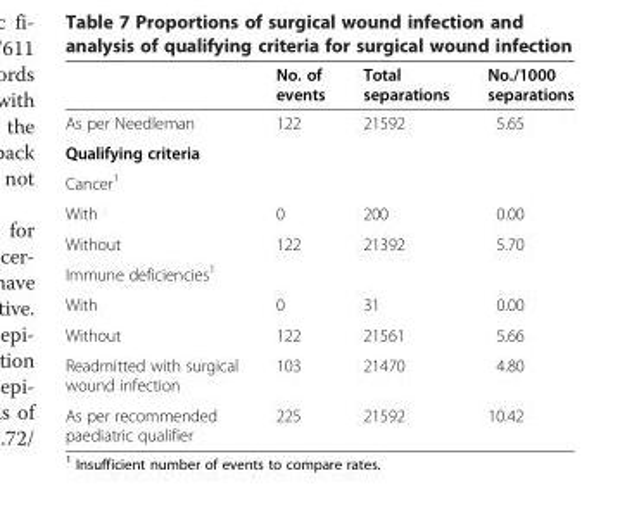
<table><thead><tr><td></td><td>No. of events</td><td>Total separations</td><td>No./1000 separations</td></tr></thead><tbody><tr><td>As per Needleman</td><td>122</td><td>21592</td><td>5.65</td></tr><tr><td colspan="4">Qualifying criteria</td></tr><tr><td colspan="4">Cancer<sup>1</sup></td></tr><tr><td>With</td><td>0</td><td>200</td><td>0.00</td></tr><tr><td>Without</td><td>122</td><td>21392</td><td>5.70</td></tr><tr><td colspan="4">Immune deficiencies<sup>1</sup></td></tr><tr><td>With</td><td>0</td><td>31</td><td>0.00</td></tr><tr><td>Without</td><td>122</td><td>21561</td><td>5.66</td></tr><tr><td>Readmitted with surgical wound infection</td><td>103</td><td>21470</td><td>4.80</td></tr><tr><td>As per recommended paediatric qualifier</td><td>225</td><td>21592</td><td>10.42</td></tr></tbody></table>